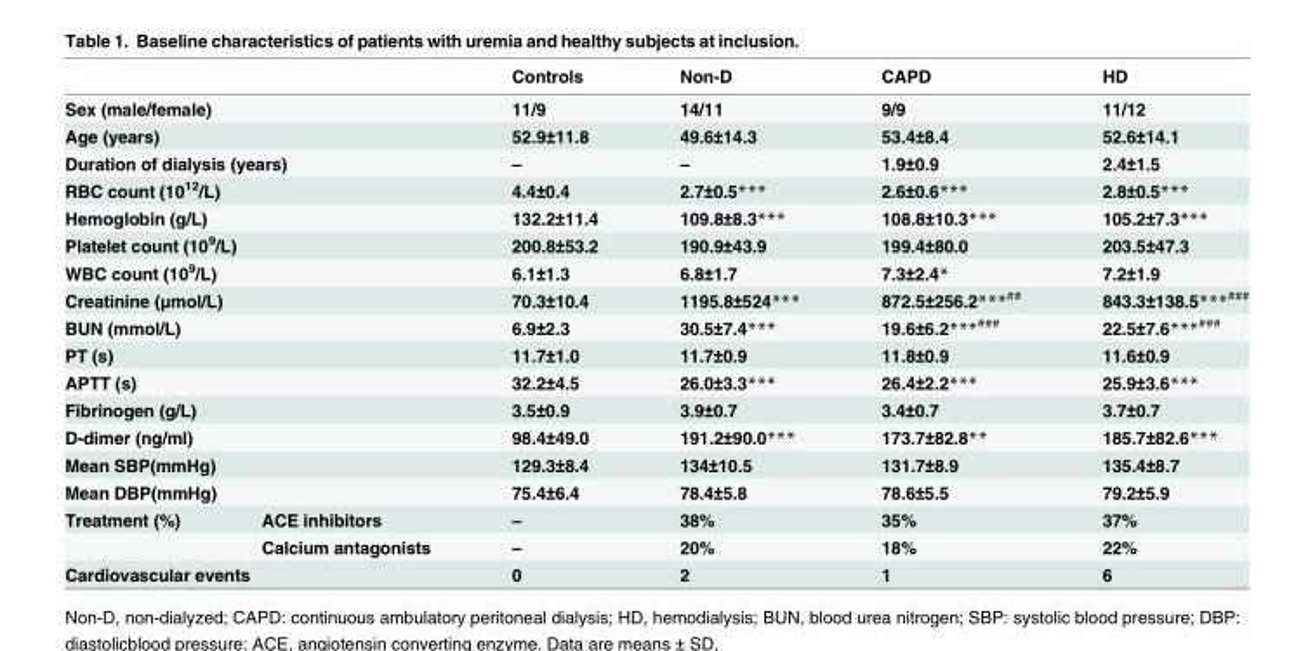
<table><thead><tr><td></td><td></td><td>Controls</td><td>Non-D</td><td>CAPD</td><td>HD</td></tr></thead><tbody><tr><td colspan="2">Sex (male/female)</td><td>11/9</td><td>14/11</td><td>9/9</td><td>11/12</td></tr><tr><td colspan="2">Age (years)</td><td>52.9±11.8</td><td>49.6±14.3</td><td>53.4±8.4</td><td>52.6±14.1</td></tr><tr><td colspan="2">Duration of dialysis (years)</td><td>–</td><td>–</td><td>1.9±0.9</td><td>2.4±1.5</td></tr><tr><td colspan="2">RBC count (10<sup>12</sup>/L)</td><td>4.4±0.4</td><td>2.7±0.5***</td><td>2.6±0.6***</td><td>2.8±0.5***</td></tr><tr><td colspan="2">Hemoglobin (g/L)</td><td>132.2±11.4</td><td>109.8±8.3***</td><td>108.8±10.3***</td><td>105.2±7.3***</td></tr><tr><td colspan="2">Platelet count (10<sup>9</sup>/L)</td><td>200.8±53.2</td><td>190.9±43.9</td><td>199.4±80.0</td><td>203.5±47.3</td></tr><tr><td colspan="2">WBC count (10<sup>9</sup>/L)</td><td>6.1±1.3</td><td>6.8±1.7</td><td>7.3±2.4*</td><td>7.2±1.9</td></tr><tr><td colspan="2">Creatinine (μmol/L)</td><td>70.3±10.4</td><td>1195.8±524***</td><td>872.5±256.2***<sup>##</sup></td><td>843.3±138.5***<sup>###</sup></td></tr><tr><td colspan="2">BUN (mmol/L)</td><td>6.9±2.3</td><td>30.5±7.4***</td><td>19.6±6.2***<sup>###</sup></td><td>22.5±7.6***<sup>###</sup></td></tr><tr><td colspan="2">PT (s)</td><td>11.7±1.0</td><td>11.7±0.9</td><td>11.8±0.9</td><td>11.6±0.9</td></tr><tr><td colspan="2">APTT (s)</td><td>32.2±4.5</td><td>26.0±3.3***</td><td>26.4±2.2***</td><td>25.9±3.6***</td></tr><tr><td colspan="2">Fibrinogen (g/L)</td><td>3.5±0.9</td><td>3.9±0.7</td><td>3.4±0.7</td><td>3.7±0.7</td></tr><tr><td colspan="2">D-dimer (ng/ml)</td><td>98.4±49.0</td><td>191.2±90.0***</td><td>173.7±82.8**</td><td>185.7±82.6***</td></tr><tr><td colspan="2">Mean SBP(mmHg)</td><td>129.3±8.4</td><td>134±10.5</td><td>131.7±8.9</td><td>135.4±8.7</td></tr><tr><td colspan="2">Mean DBP(mmHg)</td><td>75.4±6.4</td><td>78.4±5.8</td><td>78.6±5.5</td><td>79.2±5.9</td></tr><tr><td rowspan="2">Treatment (%)</td><td>ACE inhibitors</td><td>–</td><td>38%</td><td>35%</td><td>37%</td></tr><tr><td>Calcium antagonists</td><td>–</td><td>20%</td><td>18%</td><td>22%</td></tr><tr><td colspan="2">Cardiovascular events</td><td>0</td><td>2</td><td>1</td><td>6</td></tr></tbody></table>